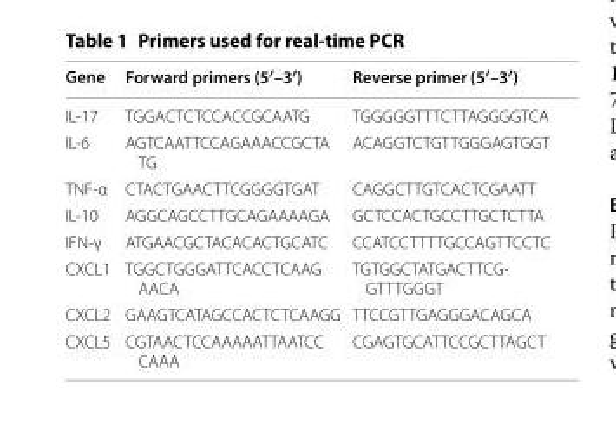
<table><thead><tr><td>Gene</td><td>Forward primers (5′–3′)</td><td>Reverse primer (5′–3′)</td></tr></thead><tbody><tr><td>IL‑17</td><td>TGGACTCTCCACCGCAATG</td><td>TGGGGGTTTCTTAGGGGTCA</td></tr><tr><td>IL‑6</td><td>AGTCAATTCCAGAAACCGCTA TG</td><td>ACAGGTCTGTTGGGAGTGGT</td></tr><tr><td>TNF‑α</td><td>CTACTGAACTTCGGGGTGAT</td><td>CAGGCTTGTCACTCGAATT</td></tr><tr><td>IL‑10</td><td>AGGCAGCCTTGCAGAAAAGA</td><td>GCTCCACTGCCTTGCTCTTA</td></tr><tr><td>IFN‑γ</td><td>ATGAACGCTACACACTGCATC</td><td>CCATCCTTTTGCCAGTTCCTC</td></tr><tr><td>CXCL1</td><td>TGGCTGGGATTCACCTCAAG AACA</td><td>TGTGGCTATGACTTCG‑ GTTTGGGT</td></tr><tr><td>CXCL2</td><td>GAAGTCATAGCCACTCTCAAGG</td><td>TTCCGTTGAGGGACAGCA</td></tr><tr><td>CXCL5</td><td>CGTAACTCCAAAAATTAATCC CAAA</td><td>CGAGTGCATTCCGCTTAGCT</td></tr></tbody></table>